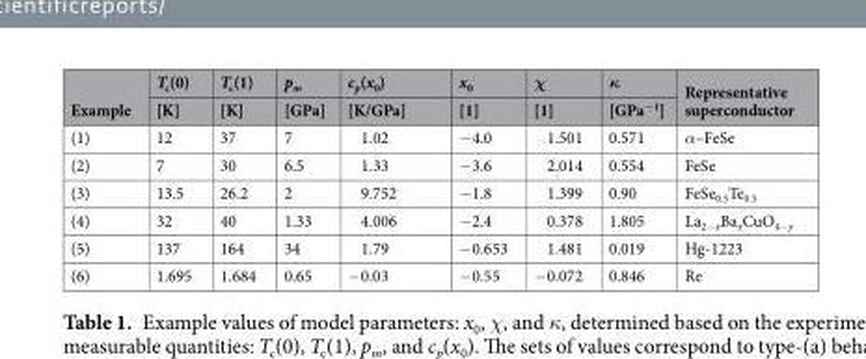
<table><thead><tr><td rowspan="2">Example</td><td rowspan="2">T<sub>c</sub>(0) [K]</td><td rowspan="2">T<sub>c</sub>(1) [K]</td><td rowspan="2">p<sub>m</sub> [GPa]</td><td rowspan="2">c<sub>p</sub>(x<sub>0</sub>) [K/GPa]</td><td rowspan="2">x<sub>0</sub> [1]</td><td rowspan="2">χ [1]</td><td rowspan="2">κ [GPa<sup>−1</sup>]</td><td rowspan="2">Representative superconductor</td></tr><tr></tr></thead><tbody><tr><td>(1)</td><td>12</td><td>37</td><td>7</td><td>1.02</td><td>−4.0</td><td>1.501</td><td>0.571</td><td>α–FeSe</td></tr><tr><td>(2)</td><td>7</td><td>30</td><td>6.5</td><td>1.33</td><td>−3.6</td><td>2.014</td><td>0.554</td><td>FeSe</td></tr><tr><td>(3)</td><td>13.5</td><td>26.2</td><td>2</td><td>9.752</td><td>−1.8</td><td>1.399</td><td>0.90</td><td>FeSe<sub>0.5</sub>Te<sub>0.5</sub></td></tr><tr><td>(4)</td><td>32</td><td>40</td><td>1.33</td><td>4.006</td><td>−2.4</td><td>0.378</td><td>1.805</td><td>La<sub>2−x</sub>Ba<sub>x</sub>CuO<sub>4−y</sub></td></tr><tr><td>(5)</td><td>137</td><td>164</td><td>34</td><td>1.79</td><td>−0.653</td><td>1.481</td><td>0.019</td><td>Hg-1223</td></tr><tr><td>(6)</td><td>1.695</td><td>1.684</td><td>0.65</td><td>−0.03</td><td>−0.55</td><td>−0.072</td><td>0.846</td><td>Re</td></tr></tbody></table>